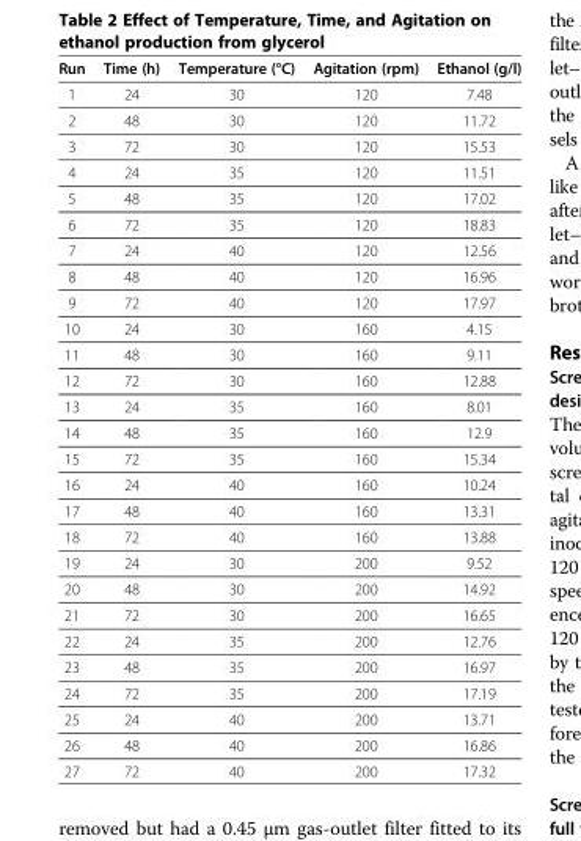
<table><thead><tr><td>Run</td><td>Time (h)</td><td>Temperature (°C)</td><td>Agitation (rpm)</td><td>Ethanol (g/l)</td></tr></thead><tbody><tr><td>1</td><td>24</td><td>30</td><td>120</td><td>7.48</td></tr><tr><td>2</td><td>48</td><td>30</td><td>120</td><td>11.72</td></tr><tr><td>3</td><td>72</td><td>30</td><td>120</td><td>15.53</td></tr><tr><td>4</td><td>24</td><td>35</td><td>120</td><td>11.51</td></tr><tr><td>5</td><td>48</td><td>35</td><td>120</td><td>17.02</td></tr><tr><td>6</td><td>72</td><td>35</td><td>120</td><td>18.83</td></tr><tr><td>7</td><td>24</td><td>40</td><td>120</td><td>12.56</td></tr><tr><td>8</td><td>48</td><td>40</td><td>120</td><td>16.96</td></tr><tr><td>9</td><td>72</td><td>40</td><td>120</td><td>17.97</td></tr><tr><td>10</td><td>24</td><td>30</td><td>160</td><td>4.15</td></tr><tr><td>11</td><td>48</td><td>30</td><td>160</td><td>9.11</td></tr><tr><td>12</td><td>72</td><td>30</td><td>160</td><td>12.88</td></tr><tr><td>13</td><td>24</td><td>35</td><td>160</td><td>8.01</td></tr><tr><td>14</td><td>48</td><td>35</td><td>160</td><td>12.9</td></tr><tr><td>15</td><td>72</td><td>35</td><td>160</td><td>15.34</td></tr><tr><td>16</td><td>24</td><td>40</td><td>160</td><td>10.24</td></tr><tr><td>17</td><td>48</td><td>40</td><td>160</td><td>13.31</td></tr><tr><td>18</td><td>72</td><td>40</td><td>160</td><td>13.88</td></tr><tr><td>19</td><td>24</td><td>30</td><td>200</td><td>9.52</td></tr><tr><td>20</td><td>48</td><td>30</td><td>200</td><td>14.92</td></tr><tr><td>21</td><td>72</td><td>30</td><td>200</td><td>16.65</td></tr><tr><td>22</td><td>24</td><td>35</td><td>200</td><td>12.76</td></tr><tr><td>23</td><td>48</td><td>35</td><td>200</td><td>16.97</td></tr><tr><td>24</td><td>72</td><td>35</td><td>200</td><td>17.19</td></tr><tr><td>25</td><td>24</td><td>40</td><td>200</td><td>13.71</td></tr><tr><td>26</td><td>48</td><td>40</td><td>200</td><td>16.86</td></tr><tr><td>27</td><td>72</td><td>40</td><td>200</td><td>17.32</td></tr></tbody></table>